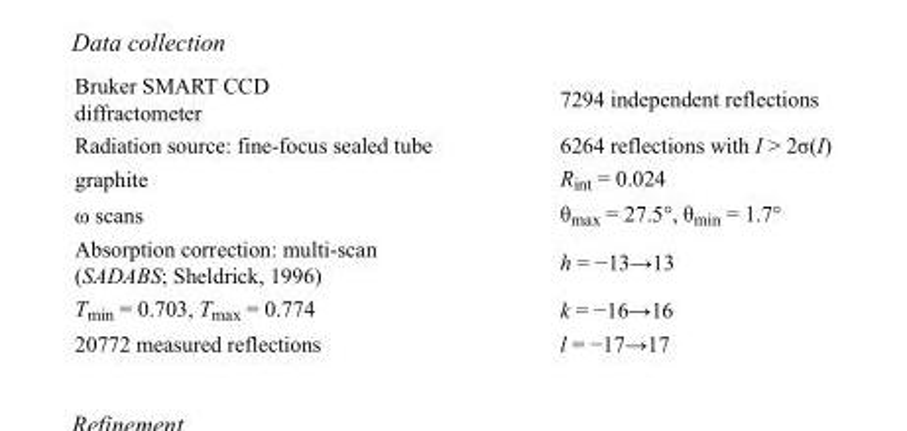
<table><tbody><tr><td>Bruker SMART CCD diffractometer</td><td>7294 independent reflections</td></tr><tr><td>Radiation source: fine-focus sealed tube</td><td>6264 reflections with I &gt; 2σ(I)</td></tr><tr><td>graphite</td><td>R<sub>int</sub> = 0.024</td></tr><tr><td>ω scans</td><td>θ<sub>max</sub> = 27.5°, θ<sub>min</sub> = 1.7°</td></tr><tr><td>Absorption correction: multi-scan (SADABS; Sheldrick, 1996)</td><td>h = −13→13</td></tr><tr><td>T<sub>min</sub> = 0.703, T<sub>max</sub> = 0.774</td><td>k = −16→16</td></tr><tr><td>20772 measured reflections</td><td>l = −17→17</td></tr></tbody></table>